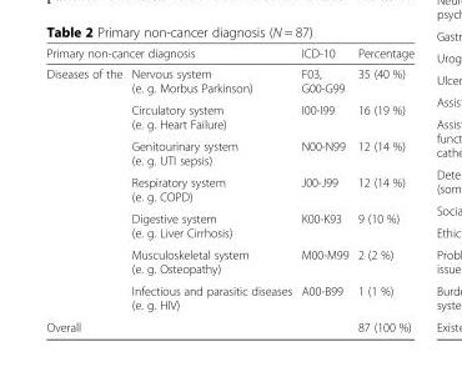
<table><thead><tr><td colspan="2">Primary non-cancer diagnosis</td><td rowspan="2">ICD-10 F03, G00-G99</td><td rowspan="2">Percentage 35 (40 %)</td></tr><tr><td>Diseases of the</td><td>Nervous system (e. g. Morbus Parkinson)</td></tr></thead><tbody><tr><td></td><td>Circulatory system (e. g. Heart Failure)</td><td>I00-I99</td><td>16 (19 %)</td></tr><tr><td></td><td>Genitourinary system (e. g. UTI sepsis)</td><td>N00-N99</td><td>12 (14 %)</td></tr><tr><td></td><td>Respiratory system (e. g. COPD)</td><td>J00-J99</td><td>12 (14 %)</td></tr><tr><td></td><td>Digestive system (e. g. Liver Cirrhosis)</td><td>K00-K93</td><td>9 (10 %)</td></tr><tr><td></td><td>Musculoskeletal system (e. g. Osteopathy)</td><td>M00-M99</td><td>2 (2 %)</td></tr><tr><td></td><td>Infectious and parasitic diseases (e. g. HIV)</td><td>A00-B99</td><td>1 (1 %)</td></tr><tr><td>Overall</td><td></td><td></td><td>87 (100 %)</td></tr></tbody></table>